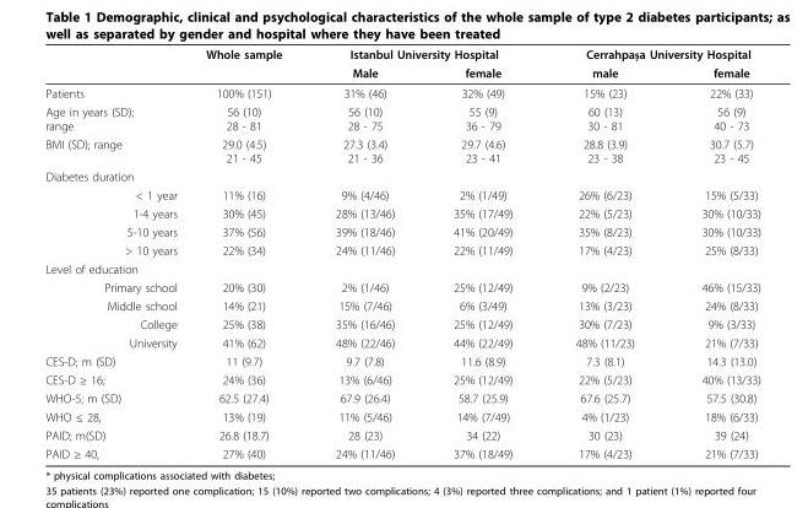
<table><thead><tr><td rowspan="2"></td><td rowspan="2">Whole sample</td><td colspan="2">Istanbul University Hospital</td><td colspan="2">Cerrahpaşa University Hospital</td></tr><tr><td>Male</td><td>female</td><td>male</td><td>female</td></tr></thead><tbody><tr><td>Patients</td><td>100% (151)</td><td>31% (46)</td><td>32% (49)</td><td>15% (23)</td><td>22% (33)</td></tr><tr><td>Age in years (SD); range</td><td>56 (10) 28 - 81</td><td>56 (10) 28 - 75</td><td>55 (9) 36 - 79</td><td>60 (13) 30 - 81</td><td>56 (9) 40 - 73</td></tr><tr><td>BMI (SD); range</td><td>29.0 (4.5) 21 - 45</td><td>27.3 (3.4) 21 - 36</td><td>29.7 (4.6) 23 - 41</td><td>28.8 (3.9) 23 - 38</td><td>30.7 (5.7) 23 - 45</td></tr><tr><td colspan="6">Diabetes duration</td></tr><tr><td>&lt; 1 year</td><td>11% (16)</td><td>9% (4/46)</td><td>2% (1/49)</td><td>26% (6/23)</td><td>15% (5/33)</td></tr><tr><td>1-4 years</td><td>30% (45)</td><td>28% (13/46)</td><td>35% (17/49)</td><td>22% (5/23)</td><td>30% (10/33)</td></tr><tr><td>5-10 years</td><td>37% (56)</td><td>39% (18/46)</td><td>41% (20/49)</td><td>35% (8/23)</td><td>30% (10/33)</td></tr><tr><td>&gt; 10 years</td><td>22% (34)</td><td>24% (11/46)</td><td>22% (11/49)</td><td>17% (4/23)</td><td>25% (8/33)</td></tr><tr><td colspan="6">Level of education</td></tr><tr><td>Primary school</td><td>20% (30)</td><td>2% (1/46)</td><td>25% (12/49)</td><td>9% (2/23)</td><td>46% (15/33)</td></tr><tr><td>Middle school</td><td>14% (21)</td><td>15% (7/46)</td><td>6% (3/49)</td><td>13% (3/23)</td><td>24% (8/33)</td></tr><tr><td>College</td><td>25% (38)</td><td>35% (16/46)</td><td>25% (12/49)</td><td>30% (7/23)</td><td>9% (3/33)</td></tr><tr><td>University</td><td>41% (62)</td><td>48% (22/46)</td><td>44% (22/49)</td><td>48% (11/23)</td><td>21% (7/33)</td></tr><tr><td>CES-D; m (SD)</td><td>11 (9.7)</td><td>9.7 (7.8)</td><td>11.6 (8.9)</td><td>7.3 (8.1)</td><td>14.3 (13.0)</td></tr><tr><td>CES-D ≥ 16;</td><td>24% (36)</td><td>13% (6/46)</td><td>25% (12/49)</td><td>22% (5/23)</td><td>40% (13/33)</td></tr><tr><td>WHO-5; m (SD)</td><td>62.5 (27.4)</td><td>67.9 (26.4)</td><td>58.7 (25.9)</td><td>67.6 (25.7)</td><td>57.5 (30.8)</td></tr><tr><td>WHO ≤ 28,</td><td>13% (19)</td><td>11% (5/46)</td><td>14% (7/49)</td><td>4% (1/23)</td><td>18% (6/33)</td></tr><tr><td>PAID; m(SD)</td><td>26.8 (18.7)</td><td>28 (23)</td><td>34 (22)</td><td>30 (23)</td><td>39 (24)</td></tr><tr><td>PAID ≥ 40,</td><td>27% (40)</td><td>24% (11/46)</td><td>37% (18/49)</td><td>17% (4/23)</td><td>21% (7/33)</td></tr></tbody></table>